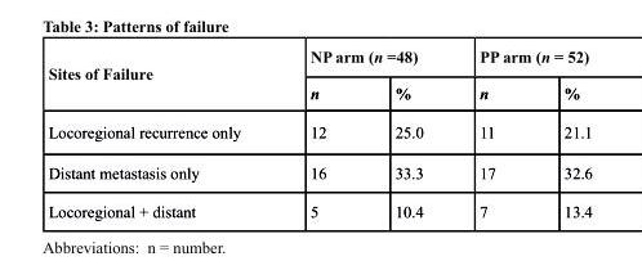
<table><thead><tr><td rowspan="2">sites of Failure</td><td colspan="2">NP arm (n =48)</td><td colspan="2">PP arm (n = 52)</td></tr><tr><td>n</td><td>%</td><td>n</td><td>%</td></tr></thead><tbody><tr><td>Locoregional recurrence only</td><td>12</td><td>25.0</td><td>11</td><td>21.1</td></tr><tr><td>Distant metastasis only</td><td>16</td><td>33.3</td><td>17</td><td>32.6</td></tr><tr><td>Locoregional + distant</td><td>5</td><td>10.4</td><td>7</td><td>13.4</td></tr></tbody></table>